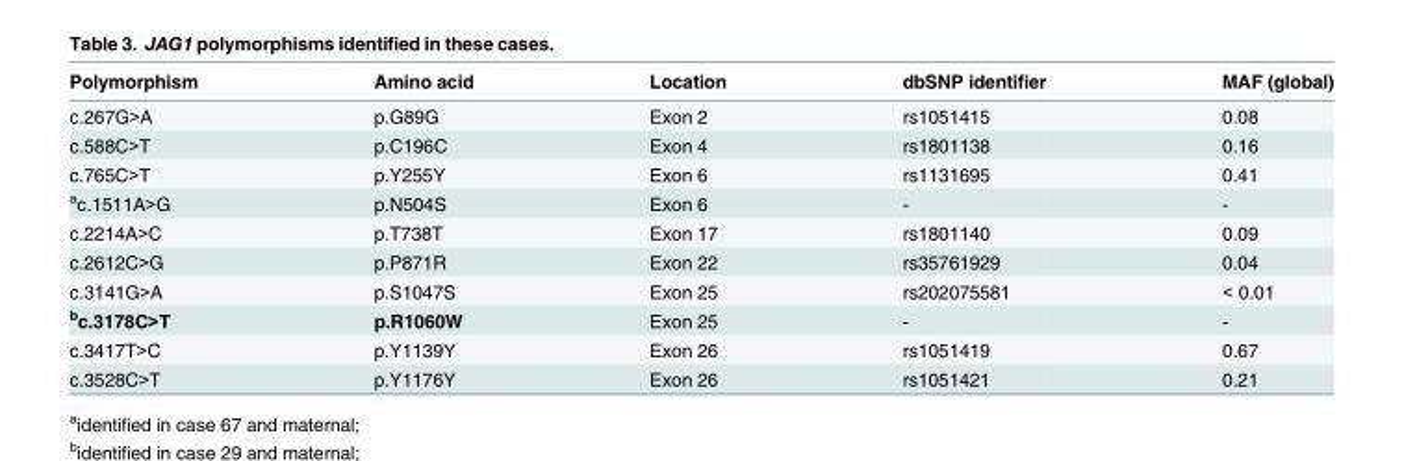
<table><thead><tr><td>Polymorphism</td><td>Amino acid</td><td>Location</td><td>dbSNP identifier</td><td>MAF (global)</td></tr></thead><tbody><tr><td>c.267G&gt;A</td><td>p.G89G</td><td>Exon 2</td><td>rs1051415</td><td>0.08</td></tr><tr><td>c.588C&gt;T</td><td>p.C196C</td><td>Exon 4</td><td>rs1801138</td><td>0.16</td></tr><tr><td>c.765C&gt;T</td><td>p.Y255Y</td><td>Exon 6</td><td>rs1131695</td><td>0.41</td></tr><tr><td><sup>a</sup>c.1511A&gt;G</td><td>p.N504S</td><td>Exon 6</td><td>-</td><td>-</td></tr><tr><td>c.2214A&gt;C</td><td>p.T738T</td><td>Exon 17</td><td>rs1801140</td><td>0.09</td></tr><tr><td>c.2612C&gt;G</td><td>p.P871R</td><td>Exon 22</td><td>rs35761929</td><td>0.04</td></tr><tr><td>c.3141G&gt;A</td><td>p.S1047S</td><td>Exon 25</td><td>rs202075581</td><td>&lt; 0.01</td></tr><tr><td><sup>b</sup>c.3178C&gt;T</td><td>p.R1060W</td><td>Exon 25</td><td>-</td><td>-</td></tr><tr><td>c.3417T&gt;C</td><td>p.Y1139Y</td><td>Exon 26</td><td>rs1051419</td><td>0.67</td></tr><tr><td>c.3528C&gt;T</td><td>p.Y1176Y</td><td>Exon 26</td><td>rs1051421</td><td>0.21</td></tr></tbody></table>